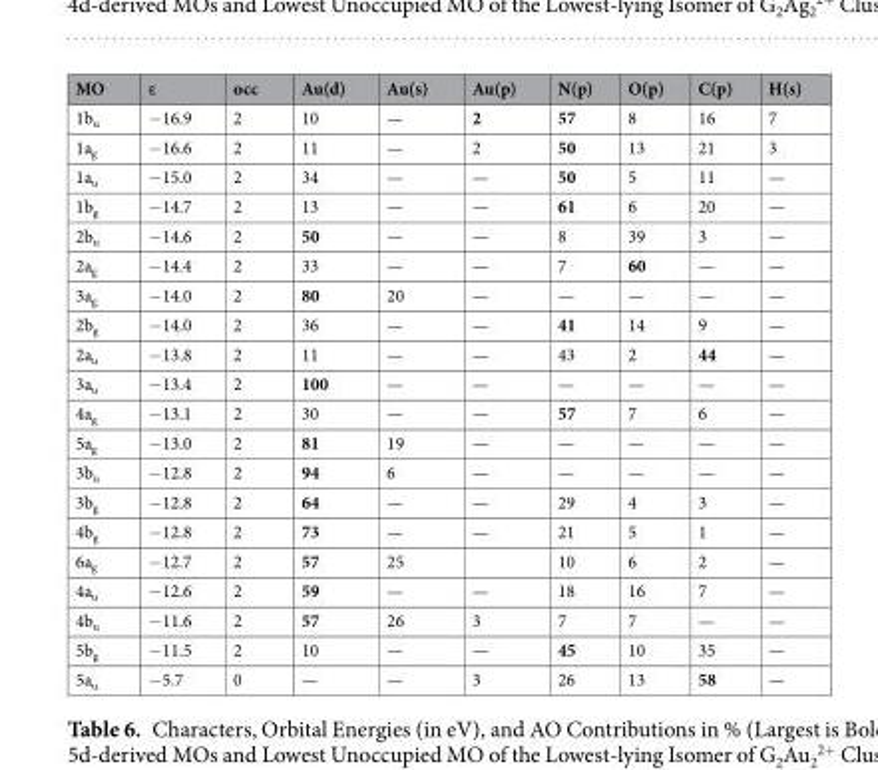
<table><thead><tr><td>MO</td><td>ε</td><td>occ</td><td>Au(d)</td><td>Au(s)</td><td>Au(p)</td><td>N(p)</td><td>O(p)</td><td>C(p)</td><td>H(s)</td></tr></thead><tbody><tr><td>1b<sub>u</sub></td><td>−16.9</td><td>2</td><td>10</td><td>—</td><td>2</td><td>57</td><td>8</td><td>16</td><td>7</td></tr><tr><td>1a<sub>g</sub></td><td>−16.6</td><td>2</td><td>11</td><td>—</td><td>2</td><td>50</td><td>13</td><td>21</td><td>3</td></tr><tr><td>1a<sub>u</sub></td><td>−15.0</td><td>2</td><td>34</td><td>—</td><td>—</td><td>50</td><td>5</td><td>11</td><td>—</td></tr><tr><td>1b<sub>g</sub></td><td>−14.7</td><td>2</td><td>13</td><td>—</td><td>—</td><td>61</td><td>6</td><td>20</td><td>—</td></tr><tr><td>2b<sub>u</sub></td><td>−14.6</td><td>2</td><td>50</td><td>—</td><td>—</td><td>8</td><td>39</td><td>3</td><td>—</td></tr><tr><td>2a<sub>g</sub></td><td>−14.4</td><td>2</td><td>33</td><td>—</td><td>—</td><td>7</td><td>60</td><td>—</td><td>—</td></tr><tr><td>3a<sub>g</sub></td><td>−14.0</td><td>2</td><td>80</td><td>20</td><td>—</td><td>—</td><td>—</td><td>—</td><td>—</td></tr><tr><td>2b<sub>g</sub></td><td>−14.0</td><td>2</td><td>36</td><td>—</td><td>—</td><td>41</td><td>14</td><td>9</td><td>—</td></tr><tr><td>2a<sub>u</sub></td><td>−13.8</td><td>2</td><td>11</td><td>—</td><td>—</td><td>43</td><td>2</td><td>44</td><td>—</td></tr><tr><td>3a<sub>u</sub></td><td>−13.4</td><td>2</td><td>100</td><td>—</td><td>—</td><td>—</td><td>—</td><td>—</td><td>—</td></tr><tr><td>4a<sub>g</sub></td><td>−13.1</td><td>2</td><td>30</td><td>—</td><td>—</td><td>57</td><td>7</td><td>6</td><td>—</td></tr><tr><td>5a<sub>g</sub></td><td>−13.0</td><td>2</td><td>81</td><td>19</td><td>—</td><td>—</td><td>—</td><td>—</td><td>—</td></tr><tr><td>3b<sub>u</sub></td><td>−12.8</td><td>2</td><td>94</td><td>6</td><td>—</td><td>—</td><td>—</td><td>—</td><td>—</td></tr><tr><td>3b<sub>g</sub></td><td>−12.8</td><td>2</td><td>64</td><td>—</td><td>—</td><td>29</td><td>4</td><td>3</td><td>—</td></tr><tr><td>4b<sub>g</sub></td><td>−12.8</td><td>2</td><td>73</td><td>—</td><td>—</td><td>21</td><td>5</td><td>1</td><td>—</td></tr><tr><td>6a<sub>g</sub></td><td>−12.7</td><td>2</td><td>57</td><td>25</td><td></td><td>10</td><td>6</td><td>2</td><td>—</td></tr><tr><td>4a<sub>u</sub></td><td>−12.6</td><td>2</td><td>59</td><td>—</td><td>—</td><td>18</td><td>16</td><td>7</td><td>—</td></tr><tr><td>4b<sub>u</sub></td><td>−11.6</td><td>2</td><td>57</td><td>26</td><td>3</td><td>7</td><td>7</td><td>—</td><td>—</td></tr><tr><td>5b<sub>g</sub></td><td>−11.5</td><td>2</td><td>10</td><td>—</td><td>—</td><td>45</td><td>10</td><td>35</td><td>—</td></tr><tr><td>5a<sub>u</sub></td><td>−5.7</td><td>0</td><td>—</td><td>—</td><td>3</td><td>26</td><td>13</td><td>58</td><td>—</td></tr></tbody></table>